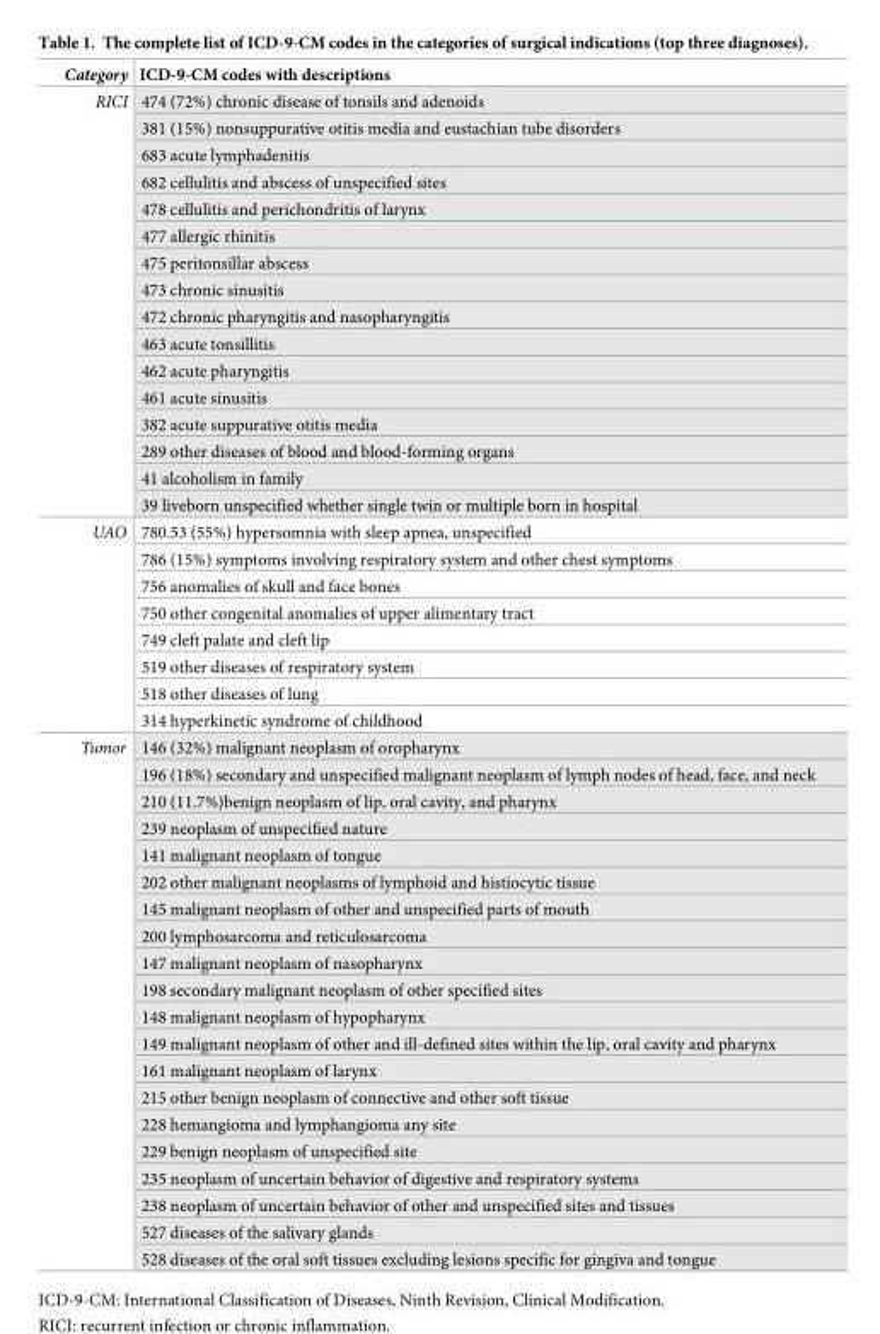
<table><thead><tr><td>Category</td><td>ICD-9-CM codes with descriptions</td></tr></thead><tbody><tr><td rowspan="16">RICI</td><td>474 (72%) chronic disease of tonsils and adenoids</td></tr><tr><td>381 (15%) nonsuppurative otitis media and eustachian tube disorders</td></tr><tr><td>683 acute lymphadenitis</td></tr><tr><td>682 cellulitis and abscess of unspecified sites</td></tr><tr><td>478 cellulitis and perichondritis of larynx</td></tr><tr><td>477 allergic rhinitis</td></tr><tr><td>475 peritonsillar abscess</td></tr><tr><td>473 chronic sinusitis</td></tr><tr><td>472 chronic pharyngitis and nasopharyngitis</td></tr><tr><td>463 acute tonsillitis</td></tr><tr><td>462 acute pharyngitis</td></tr><tr><td>461 acute sinusitis</td></tr><tr><td>382 acute suppurative otitis media</td></tr><tr><td>289 other diseases of blood and blood-forming organs</td></tr><tr><td>41 alcoholism in family</td></tr><tr><td>39 liveborn unspecified whether single twin or multiple born in hospital</td></tr><tr><td rowspan="8">UAO</td><td>780.53 (55%) hypersomnia with sleep apnea, unspecified</td></tr><tr><td>786 (15%) symptoms involving respiratory system and other chest symptoms</td></tr><tr><td>756 anomalies of skull and face bones</td></tr><tr><td>750 other congenital anomalies of upper alimentary tract</td></tr><tr><td>749 cleft palate and cleft lip</td></tr><tr><td>519 other diseases of respiratory system</td></tr><tr><td>518 other diseases of lung</td></tr><tr><td>314 hyperkinetic syndrome of childhood</td></tr><tr><td rowspan="20">Tumor</td><td>146 (32%) malignant neoplasm of oropharynx</td></tr><tr><td>196 (18%) secondary and unspecified malignant neoplasm of lymph nodes of head, face, and neck</td></tr><tr><td>210 (11.7%)benign neoplasm of lip, oral cavity, and pharynx</td></tr><tr><td>239 neoplasm of unspecified nature</td></tr><tr><td>141 malignant neoplasm of tongue</td></tr><tr><td>202 other malignant neoplasms of lymphoid and histiocytic tissue</td></tr><tr><td>145 malignant neoplasm of other and unspecified parts of mouth</td></tr><tr><td>200 lymphosarcoma and reticulosarcoma</td></tr><tr><td>147 malignant neoplasm of nasopharynx</td></tr><tr><td>198 secondary malignant neoplasm of other specified sites</td></tr><tr><td>148 malignant neoplasm of hypopharynx</td></tr><tr><td>149 malignant neoplasm of other and ill-defined sites within the lip, oral cavity and pharynx</td></tr><tr><td>161 malignant neoplasm of larynx</td></tr><tr><td>215 other benign neoplasm of connective and other soft tissue</td></tr><tr><td>228 hemangioma and lymphangioma any site</td></tr><tr><td>229 benign neoplasm of unspecified site</td></tr><tr><td>235 neoplasm of uncertain behavior of digestive and respiratory systems</td></tr><tr><td>238 neoplasm of uncertain behavior of other and unspecified sites and tissues</td></tr><tr><td>527 diseases of the salivary glands</td></tr><tr><td>528 diseases of the oral soft tissues excluding lesions specific for gingiva and tongue</td></tr></tbody></table>